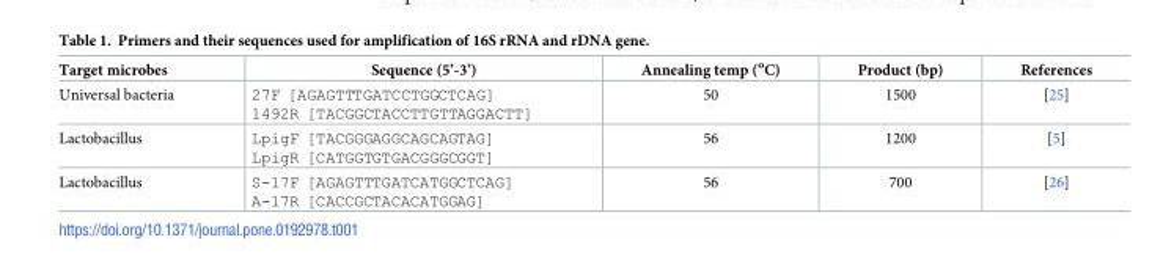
<table><thead><tr><td>Target microbes</td><td>Sequence (5’-3’)</td><td>Annealing temp (<sup>o</sup>C)</td><td>Product (bp)</td><td>References</td></tr></thead><tbody><tr><td>Universal bacteria</td><td>27F [AGAGTTTGATCCTGGCTCAG] 1492R [TACGGCTACCTTGTTAGGACTT]</td><td>50</td><td>1500</td><td>[25]</td></tr><tr><td>Lactobacillus</td><td>LpigF [TACGGGAGGCAGCAGTAG] LpigR [CATGGTGTGACGGGCGGT]</td><td>56</td><td>1200</td><td>[5]</td></tr><tr><td>Lactobacillus</td><td>S-17F [AGAGTTTGATCATGGCTCAG] A-17R [CACCGCTACACATGGAG]</td><td>56</td><td>700</td><td>[26]</td></tr></tbody></table>